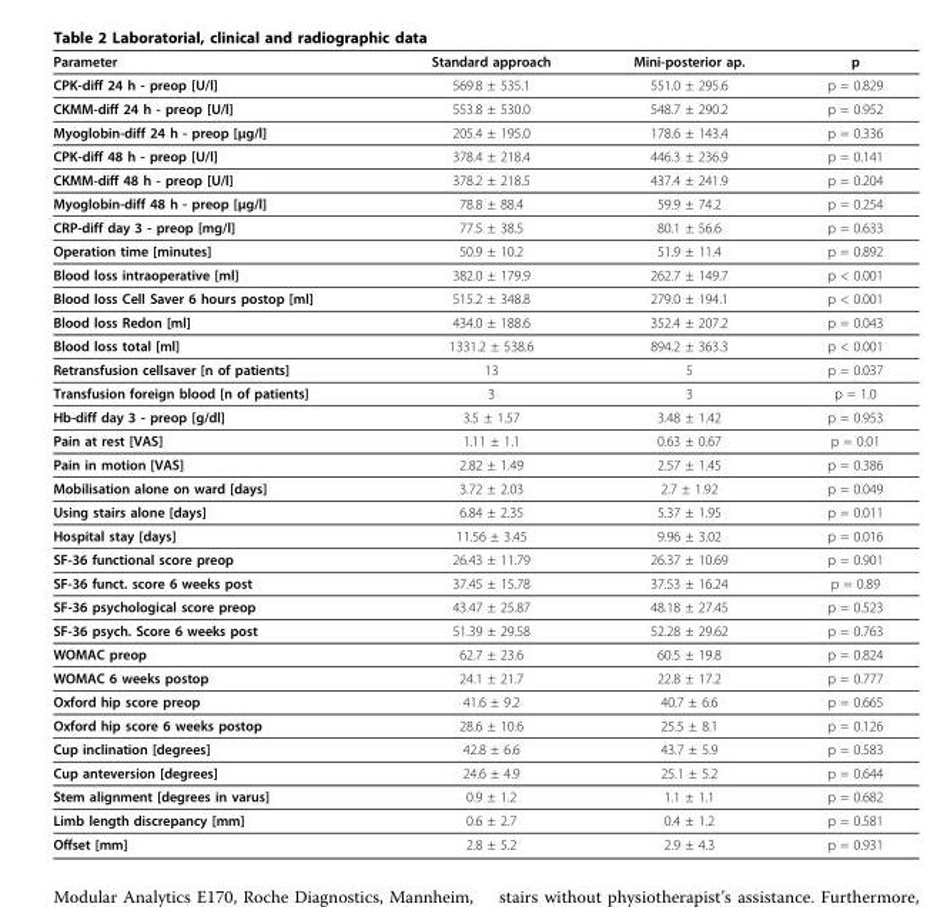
<table><thead><tr><td>Parameter</td><td>Standard approach</td><td>Mini-posterior ap.</td><td>p</td></tr></thead><tbody><tr><td>CPK-diff 24 h - preop [U/l]</td><td>569.8 ± 535.1</td><td>551.0 ± 295.6</td><td>p = 0.829</td></tr><tr><td>CKMM-diff 24 h - preop [U/l]</td><td>553.8 ± 530.0</td><td>548.7 ± 290.2</td><td>p = 0.952</td></tr><tr><td>Myoglobin-diff 24 h - preop [μg/l]</td><td>205.4 ± 195.0</td><td>178.6 ± 143.4</td><td>p = 0.336</td></tr><tr><td>CPK-diff 48 h - preop [U/l]</td><td>378.4 ± 218.4</td><td>446.3 ± 236.9</td><td>p = 0.141</td></tr><tr><td>CKMM-diff 48 h - preop [U/l]</td><td>378.2 ± 218.5</td><td>437.4 ± 241.9</td><td>p = 0.204</td></tr><tr><td>Myoglobin-diff 48 h - preop [μg/l]</td><td>78.8 ± 88.4</td><td>59.9 ± 74.2</td><td>p = 0.254</td></tr><tr><td>CRP-diff day 3 - preop [mg/l]</td><td>77.5 ± 38.5</td><td>80.1 ± 56.6</td><td>p = 0.633</td></tr><tr><td>Operation time [minutes]</td><td>50.9 ± 10.2</td><td>51.9 ± 11.4</td><td>p = 0.892</td></tr><tr><td>Blood loss intraoperative [ml]</td><td>382.0 ± 179.9</td><td>262.7 ± 149.7</td><td>p &lt; 0.001</td></tr><tr><td>Blood loss Cell Saver 6 hours postop [ml]</td><td>515.2 ± 348.8</td><td>279.0 ± 194.1</td><td>p &lt; 0.001</td></tr><tr><td>Blood loss Redon [ml]</td><td>434.0 ± 188.6</td><td>352.4 ± 207.2</td><td>p = 0.043</td></tr><tr><td>Blood loss total [ml]</td><td>1331.2 ± 538.6</td><td>894.2 ± 363.3</td><td>p &lt; 0.001</td></tr><tr><td>Retransfusion cellsaver [n of patients]</td><td>13</td><td>5</td><td>p = 0.037</td></tr><tr><td>Transfusion foreign blood [n of patients]</td><td>3</td><td>3</td><td>p = 1.0</td></tr><tr><td>Hb-diff day 3 - preop [g/dl]</td><td>3.5 ± 1.57</td><td>3.48 ± 1.42</td><td>p = 0.953</td></tr><tr><td>Pain at rest [VAS]</td><td>1.11 ± 1.1</td><td>0.63 ± 0.67</td><td>p = 0.01</td></tr><tr><td>Pain in motion [VAS]</td><td>2.82 ± 1.49</td><td>2.57 ± 1.45</td><td>p = 0.386</td></tr><tr><td>Mobilisation alone on ward [days]</td><td>3.72 ± 2.03</td><td>2.7 ± 1.92</td><td>p = 0.049</td></tr><tr><td>Using stairs alone [days]</td><td>6.84 ± 2.35</td><td>5.37 ± 1.95</td><td>p = 0.011</td></tr><tr><td>Hospital stay [days]</td><td>11.56 ± 3.45</td><td>9.96 ± 3.02</td><td>p = 0.016</td></tr><tr><td>SF-36 functional score preop</td><td>26.43 ± 11.79</td><td>26.37 ± 10.69</td><td>p = 0.901</td></tr><tr><td>SF-36 funct. score 6 weeks post</td><td>37.45 ± 15.78</td><td>37.53 ± 16.24</td><td>p = 0.89</td></tr><tr><td>SF-36 psychological score preop</td><td>43.47 ± 25.87</td><td>48.18 ± 27.45</td><td>p = 0.523</td></tr><tr><td>SF-36 psych. Score 6 weeks post</td><td>51.39 ± 29.58</td><td>52.28 ± 29.62</td><td>p = 0.763</td></tr><tr><td>WOMAC preop</td><td>62.7 ± 23.6</td><td>60.5 ± 19.8</td><td>p = 0.824</td></tr><tr><td>WOMAC 6 weeks postop</td><td>24.1 ± 21.7</td><td>22.8 ± 17.2</td><td>p = 0.777</td></tr><tr><td>Oxford hip score preop</td><td>41.6 ± 9.2</td><td>40.7 ± 6.6</td><td>p = 0.665</td></tr><tr><td>Oxford hip score 6 weeks postop</td><td>28.6 ± 10.6</td><td>25.5 ± 8.1</td><td>p = 0.126</td></tr><tr><td>Cup inclination [degrees]</td><td>42.8 ± 6.6</td><td>43.7 ± 5.9</td><td>p = 0.583</td></tr><tr><td>Cup anteversion [degrees]</td><td>24.6 ± 4.9</td><td>25.1 ± 5.2</td><td>p = 0.644</td></tr><tr><td>Stem alignment [degrees in varus]</td><td>0.9 ± 1.2</td><td>1.1 ± 1.1</td><td>p = 0.682</td></tr><tr><td>Limb length discrepancy [mm]</td><td>0.6 ± 2.7</td><td>0.4 ± 1.2</td><td>p = 0.581</td></tr><tr><td>Offset [mm]</td><td>2.8 ± 5.2</td><td>2.9 ± 4.3</td><td>p = 0.931</td></tr></tbody></table>